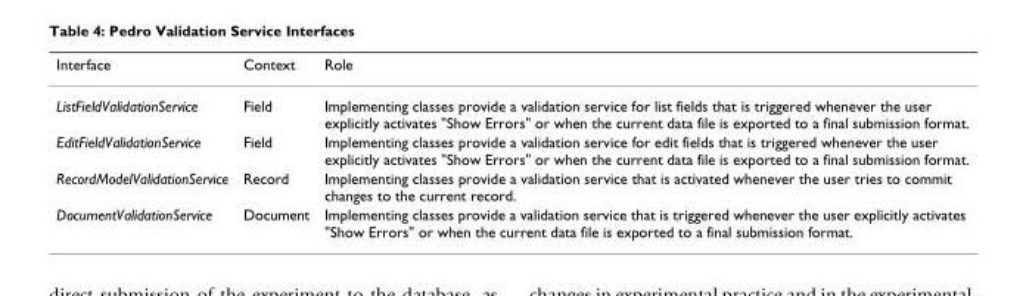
<table><thead><tr><td>Interface</td><td>Context</td><td>Role</td></tr></thead><tbody><tr><td>ListFieldValidationService</td><td>Field</td><td>Implementing classes provide a validation service for list fields that is triggered whenever the user explicitly activates &quot;Show Errors&quot; or when the current data file is exported to a final submission format.</td></tr><tr><td>EditFieldValidationService</td><td>Field</td><td>Implementing classes provide a validation service for edit fields that is triggered whenever the user explicitly activates &quot;Show Errors&quot; or when the current data file is exported to a final submission format.</td></tr><tr><td>RecordModelValidationService</td><td>Record</td><td>Implementing classes provide a validation service that is activated whenever the user tries to commit changes to the current record.</td></tr><tr><td>DocumentValidationService</td><td>Document</td><td>Implementing classes provide a validation service that is triggered whenever the user explicitly activates &quot;Show Errors&quot; or when the current data file is exported to a final submission format.</td></tr></tbody></table>